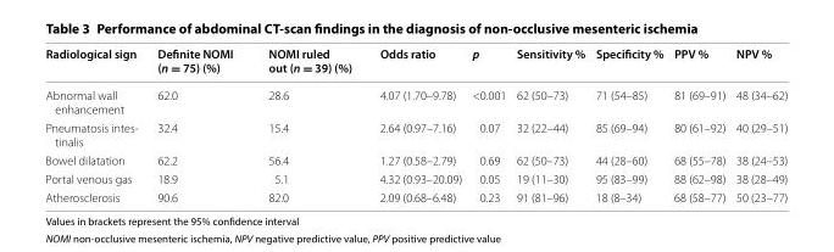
<table><thead><tr><td>Radiological sign</td><td>Definite NOMI (n = 75) (%)</td><td>NOMI ruled out (n = 39) (%)</td><td>Odds ratio</td><td>p</td><td>Sensitivity %</td><td>Specificity %</td><td>PPV %</td><td>NPV %</td></tr></thead><tbody><tr><td>Abnormal wall enhancement</td><td>62.0</td><td>28.6</td><td>4.07 (1.70–9.78)</td><td>&lt;0.001</td><td>62 (50–73)</td><td>71 (54–85)</td><td>81 (69–91)</td><td>48 (34–62)</td></tr><tr><td>Pneumatosis intes‑ tinalis</td><td>32.4</td><td>15.4</td><td>2.64 (0.97–7.16)</td><td>0.07</td><td>32 (22–44)</td><td>85 (69–94)</td><td>80 (61–92)</td><td>40 (29–51)</td></tr><tr><td>Bowel dilatation</td><td>62.2</td><td>56.4</td><td>1.27 (0.58–2.79)</td><td>0.69</td><td>62 (50–73)</td><td>44 (28–60)</td><td>68 (55–78)</td><td>38 (24–53)</td></tr><tr><td>Portal venous gas</td><td>18.9</td><td>5.1</td><td>4.32 (0.93–20.09)</td><td>0.05</td><td>19 (11–30)</td><td>95 (83–99)</td><td>88 (62–98)</td><td>38 (28–49)</td></tr><tr><td>Atherosclerosis</td><td>90.6</td><td>82.0</td><td>2.09 (0.68–6.48)</td><td>0.23</td><td>91 (81–96)</td><td>18 (8–34)</td><td>68 (58–77)</td><td>50 (23–77)</td></tr></tbody></table>